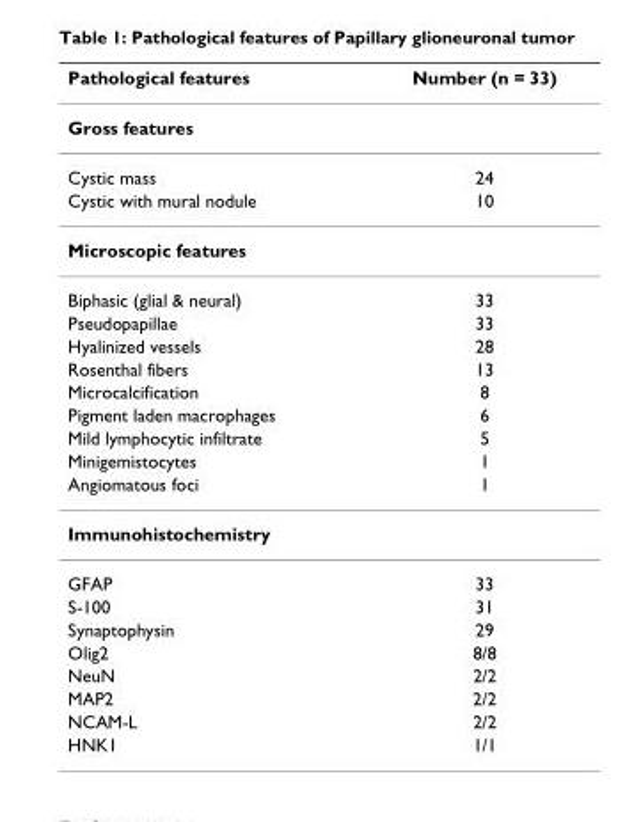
<table><thead><tr><td>Pathological features</td><td>Number (n = 33)</td></tr></thead><tbody><tr><td colspan="2">Gross features</td></tr><tr><td>Cystic mass</td><td>24</td></tr><tr><td>Cystic with mural nodule</td><td>10</td></tr><tr><td colspan="2">Microscopic features</td></tr><tr><td>Biphasic (glial &amp; neural)</td><td>33</td></tr><tr><td>Pseudopapillae</td><td>33</td></tr><tr><td>Hyalinized vessels</td><td>28</td></tr><tr><td>Rosenthal fibers</td><td>13</td></tr><tr><td>Microcalcification</td><td>8</td></tr><tr><td>Pigment laden macrophages</td><td>6</td></tr><tr><td>Mild lymphocytic infiltrate</td><td>5</td></tr><tr><td>Minigemistocytes</td><td>1</td></tr><tr><td>Angiomatous foci</td><td>1</td></tr><tr><td colspan="2">Immunohistochemistry</td></tr><tr><td>GFAP</td><td>33</td></tr><tr><td>S-100</td><td>31</td></tr><tr><td>Synaptophysin</td><td>29</td></tr><tr><td>Olig2</td><td>8/8</td></tr><tr><td>NeuN</td><td>2/2</td></tr><tr><td>MAP2</td><td>2/2</td></tr><tr><td>NCAM-L</td><td>2/2</td></tr><tr><td>HNK1</td><td>1/1</td></tr></tbody></table>